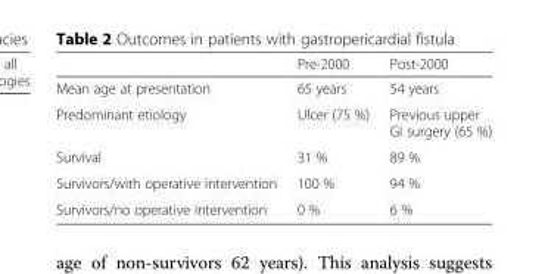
<table><thead><tr><td></td><td>Pre-2000</td><td>Post-2000</td></tr></thead><tbody><tr><td>Mean age at presentation</td><td>65 years</td><td>54 years</td></tr><tr><td>Predominant etiology</td><td>Ulcer (75 %)</td><td>Previous upper GI surgery (65 %)</td></tr><tr><td>Survival</td><td>31 %</td><td>89 %</td></tr><tr><td>Survivors/with operative intervention</td><td>100 %</td><td>94 %</td></tr><tr><td>Survivors/no operative intervention</td><td>0 %</td><td>6 %</td></tr></tbody></table>